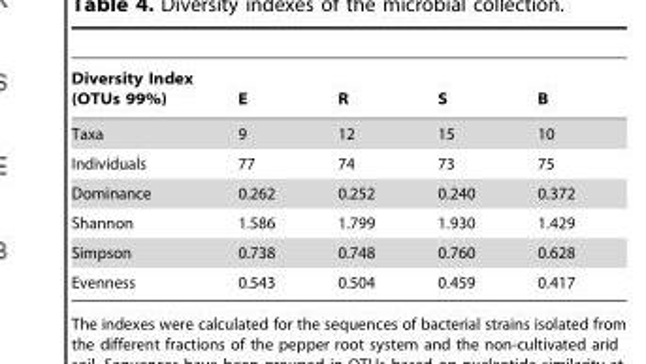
<table><thead><tr><td>Diversity Index (OTUs 99%)</td><td>E</td><td>R</td><td>S</td><td>B</td></tr></thead><tbody><tr><td>Taxa</td><td>9</td><td>12</td><td>15</td><td>10</td></tr><tr><td>Individuals</td><td>77</td><td>74</td><td>73</td><td>75</td></tr><tr><td>Dominance</td><td>0.262</td><td>0.252</td><td>0.240</td><td>0.372</td></tr><tr><td>Shannon</td><td>1.586</td><td>1.799</td><td>1.930</td><td>1.429</td></tr><tr><td>Simpson</td><td>0.738</td><td>0.748</td><td>0.760</td><td>0.628</td></tr><tr><td>Evenness</td><td>0.543</td><td>0.504</td><td>0.459</td><td>0.417</td></tr></tbody></table>